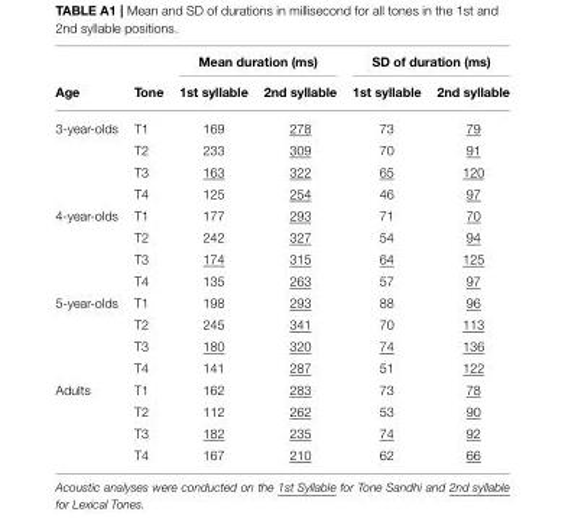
<table><thead><tr><td rowspan="2">Age</td><td rowspan="2">Tone</td><td colspan="2">Mean duration (ms)</td><td colspan="2">SD of duration (ms)</td></tr><tr><td>1st syllable</td><td>2nd syllable</td><td>1st syllable</td><td>2nd syllable</td></tr></thead><tbody><tr><td rowspan="4">3-year-olds</td><td>T1</td><td>169</td><td>278</td><td>73</td><td>79</td></tr><tr><td>T2</td><td>233</td><td>309</td><td>70</td><td>91</td></tr><tr><td>T3</td><td>163</td><td>322</td><td>65</td><td>120</td></tr><tr><td>T4</td><td>125</td><td>254</td><td>46</td><td>97</td></tr><tr><td rowspan="4">4-year-olds</td><td>T1</td><td>177</td><td>293</td><td>71</td><td>70</td></tr><tr><td>T2</td><td>242</td><td>327</td><td>54</td><td>94</td></tr><tr><td>T3</td><td>174</td><td>315</td><td>64</td><td>125</td></tr><tr><td>T4</td><td>135</td><td>263</td><td>57</td><td>97</td></tr><tr><td rowspan="4">5-year-olds</td><td>T1</td><td>198</td><td>293</td><td>88</td><td>96</td></tr><tr><td>T2</td><td>245</td><td>341</td><td>70</td><td>113</td></tr><tr><td>T3</td><td>180</td><td>320</td><td>74</td><td>136</td></tr><tr><td>T4</td><td>141</td><td>287</td><td>51</td><td>122</td></tr><tr><td rowspan="4">Adults</td><td>T1</td><td>162</td><td>283</td><td>73</td><td>78</td></tr><tr><td>T2</td><td>112</td><td>262</td><td>53</td><td>90</td></tr><tr><td>T3</td><td>182</td><td>235</td><td>74</td><td>92</td></tr><tr><td>T4</td><td>167</td><td>210</td><td>62</td><td>66</td></tr></tbody></table>